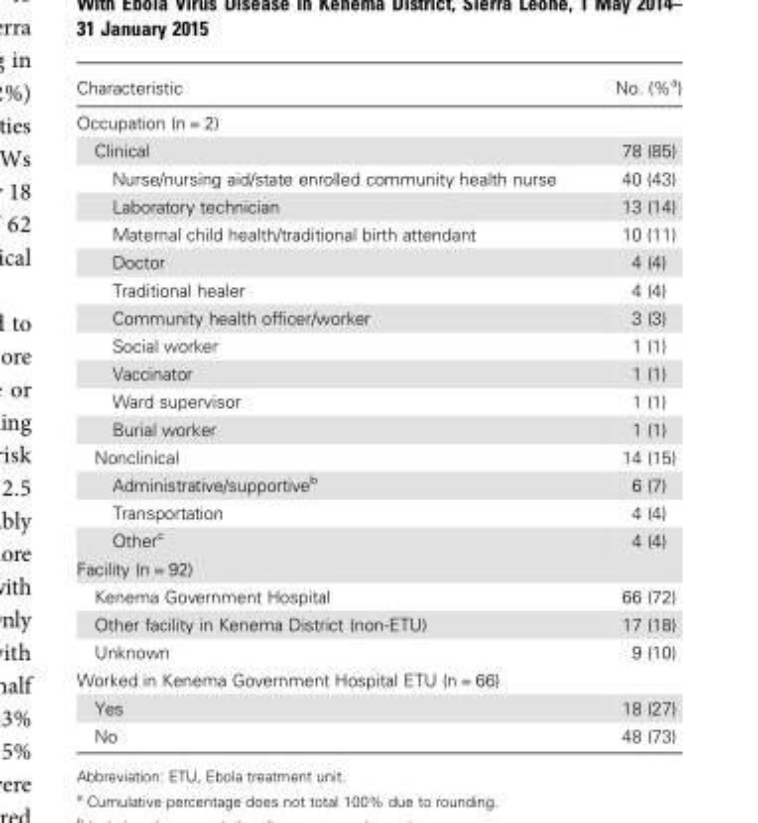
<table><thead><tr><td>Characteristic</td><td>No. (%<sup>a</sup>)</td></tr></thead><tbody><tr><td colspan="2">Occupation (n = 2)</td></tr><tr><td>Clinical</td><td>78 (85)</td></tr><tr><td>Nurse/nursing aid/state enrolled community health nurse</td><td>40 (43)</td></tr><tr><td>Laboratory technician</td><td>13 (14)</td></tr><tr><td>Maternal child health/traditional birth attendant</td><td>10 (11)</td></tr><tr><td>Doctor</td><td>4 (4)</td></tr><tr><td>Traditional healer</td><td>4 (4)</td></tr><tr><td>Community health officer/worker</td><td>3 (3)</td></tr><tr><td>Social worker</td><td>1 (1)</td></tr><tr><td>Vaccinator</td><td>1 (1)</td></tr><tr><td>Ward supervisor</td><td>1 (1)</td></tr><tr><td>Burial worker</td><td>1 (1)</td></tr><tr><td>Nonclinical</td><td>14 (15)</td></tr><tr><td>Administrative/supportive<sup>b</sup></td><td>6 (7)</td></tr><tr><td>Transportation</td><td>4 (4)</td></tr><tr><td>Other<sup>c</sup></td><td>4 (4)</td></tr><tr><td colspan="2">Facility (n = 92)</td></tr><tr><td>Kenema Government Hospital</td><td>66 (72)</td></tr><tr><td>Other facility in Kenema District (non-ETU)</td><td>17 (18)</td></tr><tr><td>Unknown</td><td>9 (10)</td></tr><tr><td colspan="2">Worked in Kenema Government Hospital ETU (n = 66)</td></tr><tr><td>Yes</td><td>18 (27)</td></tr><tr><td>No</td><td>48 (73)</td></tr></tbody></table>